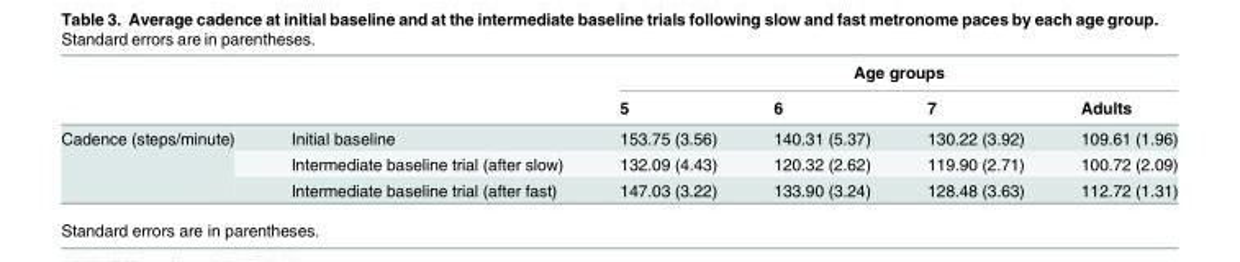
<table><thead><tr><td rowspan="2"></td><td rowspan="2"></td><td colspan="4">Age groups</td></tr><tr><td>5</td><td>6</td><td>7</td><td>Adults</td></tr></thead><tbody><tr><td rowspan="3">Cadence (steps/minute)</td><td>Initial baseline</td><td>153.75 (3.56)</td><td>140.31 (5.37)</td><td>130.22 (3.92)</td><td>109.61 (1.96)</td></tr><tr><td>Intermediate baseline trial (after slow)</td><td>132.09 (4.43)</td><td>120.32 (2.62)</td><td>119.90 (2.71)</td><td>100.72 (2.09)</td></tr><tr><td>Intermediate baseline trial (after fast)</td><td>147.03 (3.22)</td><td>133.90 (3.24)</td><td>128.48 (3.63)</td><td>112.72 (1.31)</td></tr></tbody></table>